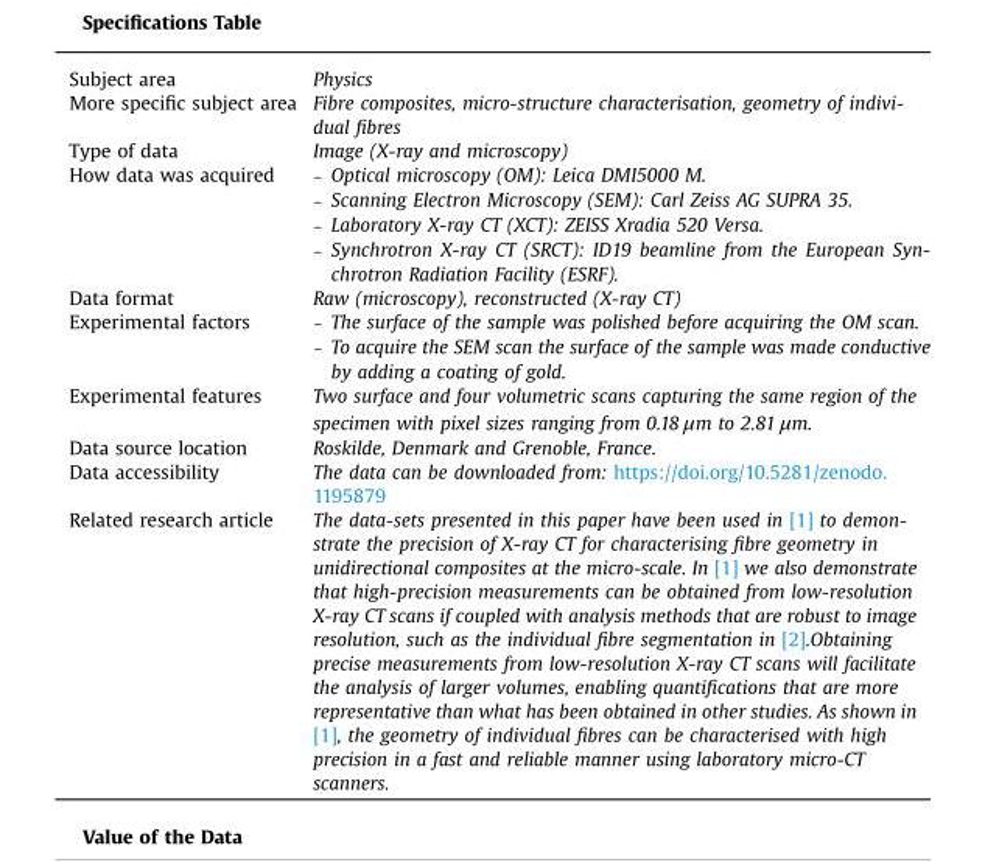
<table><tbody><tr><td>Subject area</td><td>Physics</td></tr><tr><td>More specific subject area</td><td>Fibre composites, micro-structure characterisation, geometry of indivi- dual fibres</td></tr><tr><td>Type of data</td><td>Image (X-ray and microscopy)</td></tr><tr><td>How data was acquired</td><td>– Optical microscopy (OM): Leica DMI5000 M. – Scanning Electron Microscopy (SEM): Carl Zeiss AG SUPRA 35. – Laboratory X-ray CT (XCT): ZEISS Xradia 520 Versa. – Synchrotron X-ray CT (SRCT): ID19 beamline from the European Syn- chrotron Radiation Facility (ESRF).</td></tr><tr><td>Data format</td><td>Raw (microscopy), reconstructed (X-ray CT)</td></tr><tr><td>Experimental factors</td><td>– The surface of the sample was polished before acquiring the OM scan. – To acquire the SEM scan the surface of the sample was made conductive by adding a coating of gold.</td></tr><tr><td>Experimental features</td><td>Two surface and four volumetric scans capturing the same region of the specimen with pixel sizes ranging from 0.18 μm to 2.81 μm.</td></tr><tr><td>Data source location</td><td>Roskilde, Denmark and Grenoble, France.</td></tr><tr><td>Data accessibility</td><td>The data can be downloaded from: https://doi.org/10.5281/zenodo. 1195879</td></tr><tr><td>Related research article</td><td>The data-sets presented in this paper have been used in [1] to demon- strate the precision of X-ray CT for characterising fibre geometry in unidirectional composites at the micro-scale. In [1] we also demonstrate that high-precision measurements can be obtained from low-resolution X-ray CT scans if coupled with analysis methods that are robust to image resolution, such as the individual fibre segmentation in [2].Obtaining precise measurements from low-resolution X-ray CT scans will facilitate the analysis of larger volumes, enabling quantifications that are more representative than what has been obtained in other studies. As shown in [1], the geometry of individual fibres can be characterised with high precision in a fast and reliable manner using laboratory micro-CT scanners.</td></tr></tbody></table>